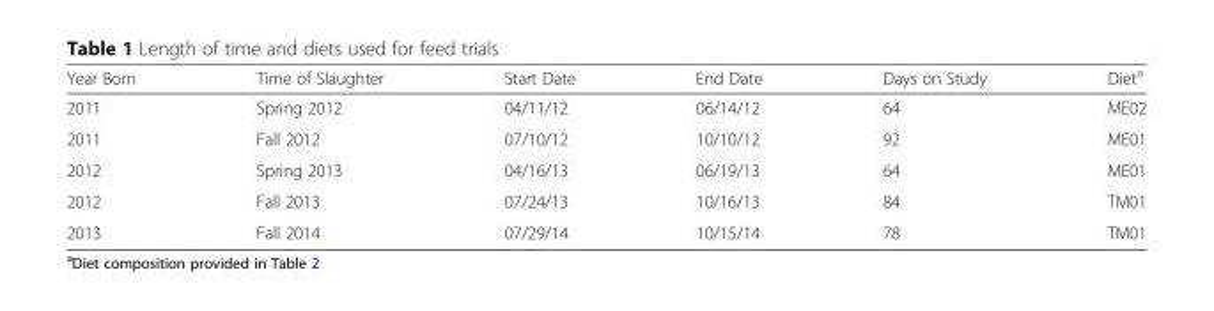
<table><thead><tr><td>Year Born</td><td>Time of Slaughter</td><td>Start Date</td><td>End Date</td><td>Days on Study</td><td>Diet<sup>a</sup></td></tr></thead><tbody><tr><td>2011</td><td>Spring 2012</td><td>04/11/12</td><td>06/14/12</td><td>64</td><td>ME02</td></tr><tr><td>2011</td><td>Fall 2012</td><td>07/10/12</td><td>10/10/12</td><td>92</td><td>ME01</td></tr><tr><td>2012</td><td>Spring 2013</td><td>04/16/13</td><td>06/19/13</td><td>64</td><td>ME01</td></tr><tr><td>2012</td><td>Fall 2013</td><td>07/24/13</td><td>10/16/13</td><td>84</td><td>TM01</td></tr><tr><td>2013</td><td>Fall 2014</td><td>07/29/14</td><td>10/15/14</td><td>78</td><td>TM01</td></tr></tbody></table>